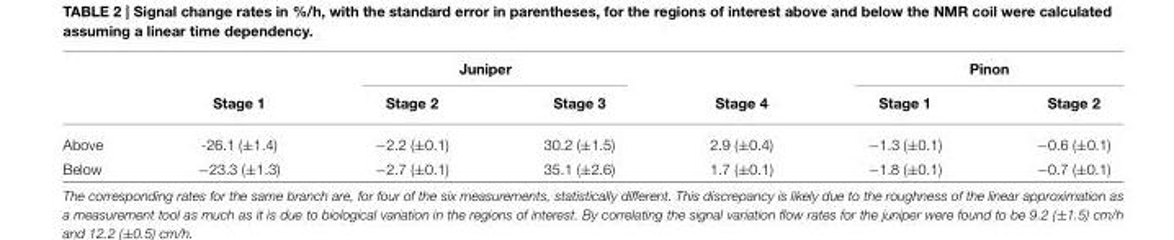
<table><thead><tr><td rowspan="2"></td><td colspan="4">Juniper</td><td colspan="2">Pinon</td></tr><tr><td>Stage 1</td><td>Stage 2</td><td>Stage 3</td><td>Stage 4</td><td>Stage 1</td><td>Stage 2</td></tr></thead><tbody><tr><td>Above</td><td>-26.1 (±1.4)</td><td>−2.2 (±0.1)</td><td>30.2 (±1.5)</td><td>2.9 (±0.4)</td><td>−1.3 (±0.1)</td><td>−0.6 (±0.1)</td></tr><tr><td>Below</td><td>−23.3 (±1.3)</td><td>−2.7 (±0.1)</td><td>35.1 (±2.6)</td><td>1.7 (±0.1)</td><td>−1.8 (±0.1)</td><td>−0.7 (±0.1)</td></tr></tbody></table>